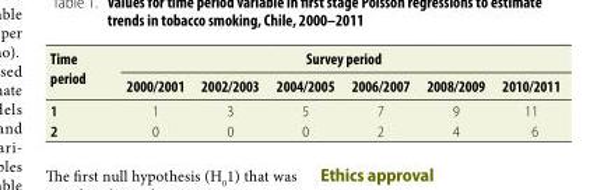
<table><thead><tr><td rowspan="2">Time period</td><td colspan="6">Survey period</td></tr><tr><td>2000/2001</td><td>2002/2003</td><td>2004/2005</td><td>2006/2007</td><td>2008/2009</td><td>2010/2011</td></tr></thead><tbody><tr><td>1</td><td>1</td><td>3</td><td>5</td><td>7</td><td>9</td><td>11</td></tr><tr><td>2</td><td>0</td><td>0</td><td>0</td><td>2</td><td>4</td><td>6</td></tr></tbody></table>